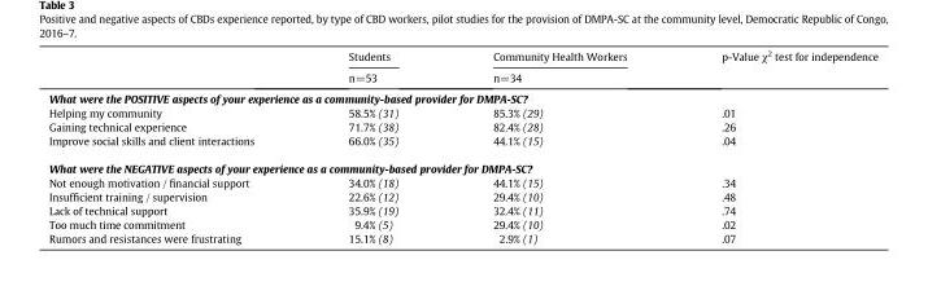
<table><thead><tr><td rowspan="2"></td><td rowspan="2">Students n=53</td><td rowspan="2">Community Health Workers n=34</td><td rowspan="2">p-Value χ<sup>2</sup> test for independence</td></tr><tr></tr></thead><tbody><tr><td colspan="4">What were the POSITIVE aspects of your experience as a community-based provider for DMPA-SC?</td></tr><tr><td>Helping my community</td><td>58.5% (31)</td><td>85.3% (29)</td><td>.01</td></tr><tr><td>Gaining technical experience</td><td>71.7% (38)</td><td>82.4% (28)</td><td>.26</td></tr><tr><td>Improve social skills and client interactions</td><td>66.0% (35)</td><td>44.1% (15)</td><td>.04</td></tr><tr><td colspan="4">What were the NEGATIVE aspects of your experience as a community-based provider for DMPA-SC?</td></tr><tr><td>Not enough motivation / financial support</td><td>34.0% (18)</td><td>44.1% (15)</td><td>.34</td></tr><tr><td>Insufficient training / supervision</td><td>22.6% (12)</td><td>29.4% (10)</td><td>.48</td></tr><tr><td>Lack of technical support</td><td>35.9% (19)</td><td>32.4% (11)</td><td>.74</td></tr><tr><td>Too much time commitment</td><td>9.4% (5)</td><td>29.4% (10)</td><td>.02</td></tr><tr><td>Rumors and resistances were frustrating</td><td>15.1% (8)</td><td>2.9% (1)</td><td>.07</td></tr></tbody></table>